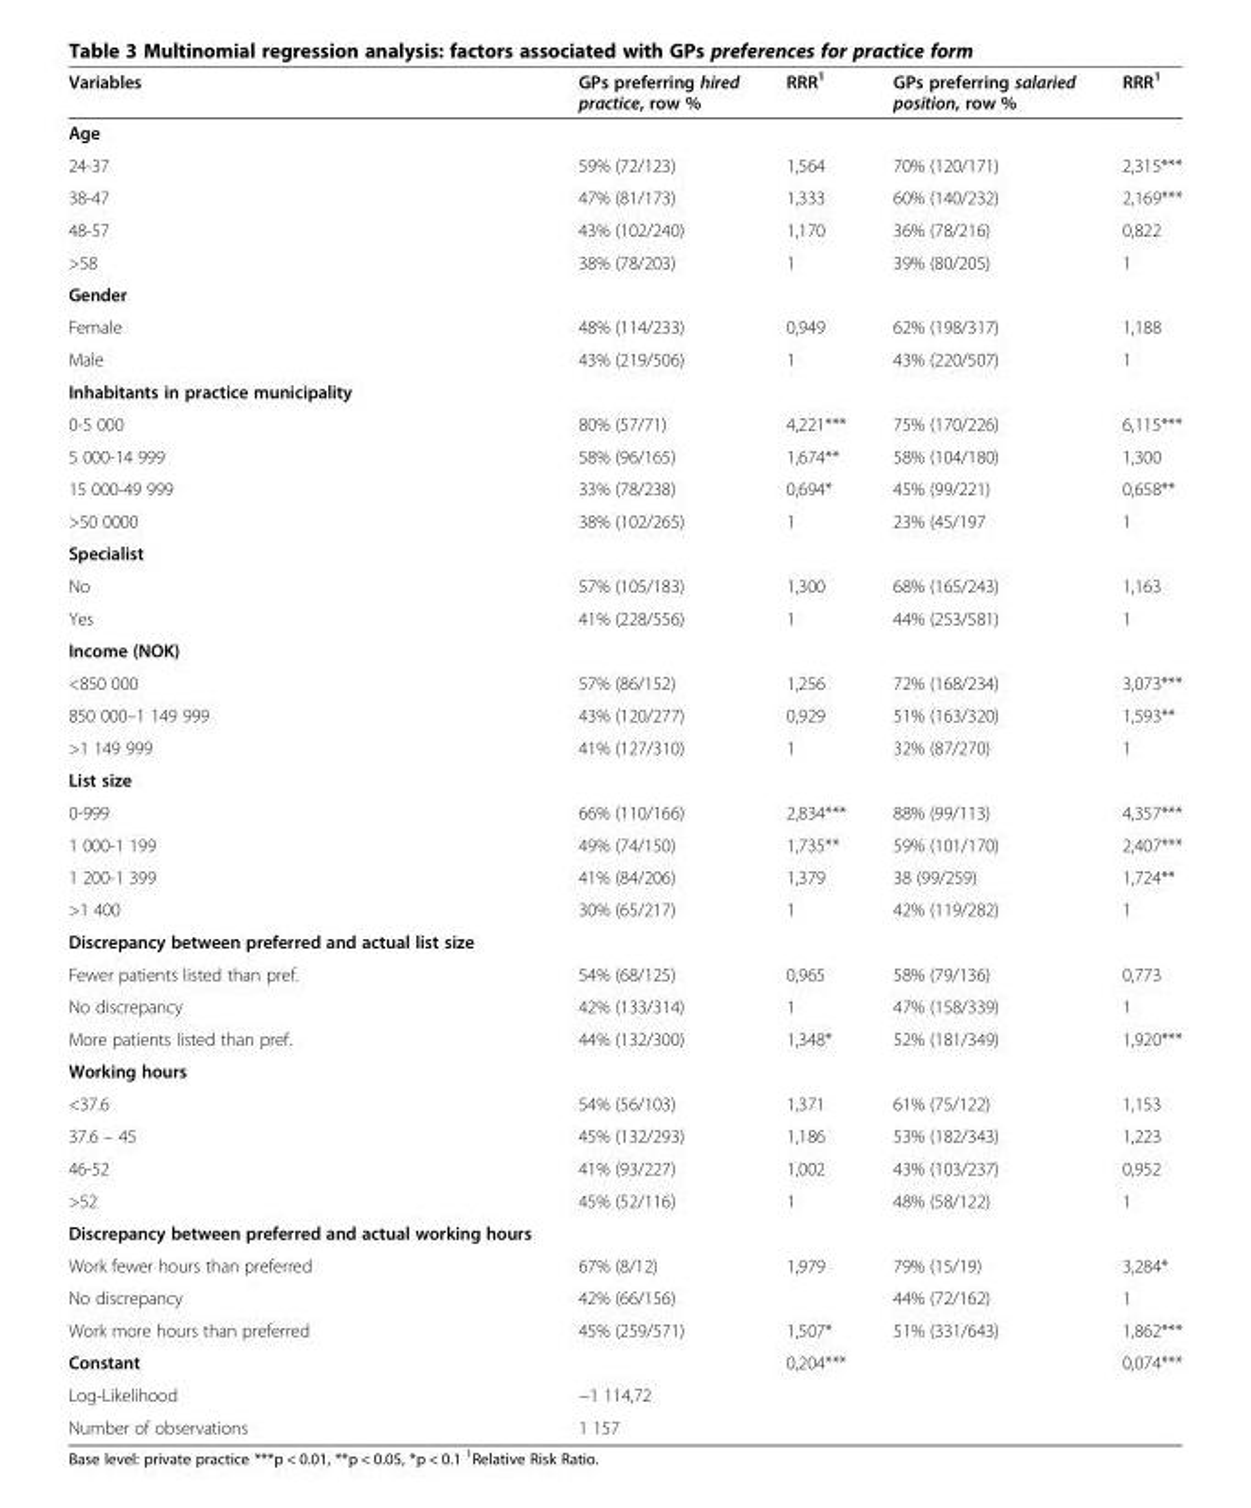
<table><thead><tr><td>Variables</td><td>GPs preferring hired practice, row %</td><td>RRR<sup>1</sup></td><td>GPs preferring salaried position, row %</td><td>RRR<sup>1</sup></td></tr></thead><tbody><tr><td colspan="5">Age</td></tr><tr><td>24-37</td><td>59% (72/123)</td><td>1,564</td><td>70% (120/171)</td><td>2,315***</td></tr><tr><td>38-47</td><td>47% (81/173)</td><td>1,333</td><td>60% (140/232)</td><td>2,169***</td></tr><tr><td>48-57</td><td>43% (102/240)</td><td>1,170</td><td>36% (78/216)</td><td>0,822</td></tr><tr><td>&gt;58</td><td>38% (78/203)</td><td>1</td><td>39% (80/205)</td><td>1</td></tr><tr><td colspan="5">Gender</td></tr><tr><td>Female</td><td>48% (114/233)</td><td>0,949</td><td>62% (198/317)</td><td>1,188</td></tr><tr><td>Male</td><td>43% (219/506)</td><td>1</td><td>43% (220/507)</td><td>1</td></tr><tr><td colspan="5">Inhabitants in practice municipality</td></tr><tr><td>0-5 000</td><td>80% (57/71)</td><td>4,221***</td><td>75% (170/226)</td><td>6,115***</td></tr><tr><td>5 000-14 999</td><td>58% (96/165)</td><td>1,674**</td><td>58% (104/180)</td><td>1,300</td></tr><tr><td>15 000-49 999</td><td>33% (78/238)</td><td>0,694*</td><td>45% (99/221)</td><td>0,658**</td></tr><tr><td>&gt;50 0000</td><td>38% (102/265)</td><td>1</td><td>23% (45/197</td><td>1</td></tr><tr><td colspan="5">Specialist</td></tr><tr><td>No</td><td>57% (105/183)</td><td>1,300</td><td>68% (165/243)</td><td>1,163</td></tr><tr><td>Yes</td><td>41% (228/556)</td><td>1</td><td>44% (253/581)</td><td>1</td></tr><tr><td colspan="5">Income (NOK)</td></tr><tr><td>&lt;850 000</td><td>57% (86/152)</td><td>1,256</td><td>72% (168/234)</td><td>3,073***</td></tr><tr><td>850 000–1 149 999</td><td>43% (120/277)</td><td>0,929</td><td>51% (163/320)</td><td>1,593**</td></tr><tr><td>&gt;1 149 999</td><td>41% (127/310)</td><td>1</td><td>32% (87/270)</td><td>1</td></tr><tr><td colspan="5">List size</td></tr><tr><td>0-999</td><td>66% (110/166)</td><td>2,834***</td><td>88% (99/113)</td><td>4,357***</td></tr><tr><td>1 000-1 199</td><td>49% (74/150)</td><td>1,735**</td><td>59% (101/170)</td><td>2,407***</td></tr><tr><td>1 200-1 399</td><td>41% (84/206)</td><td>1,379</td><td>38 (99/259)</td><td>1,724**</td></tr><tr><td>&gt;1 400</td><td>30% (65/217)</td><td>1</td><td>42% (119/282)</td><td>1</td></tr><tr><td colspan="5">Discrepancy between preferred and actual list size</td></tr><tr><td>Fewer patients listed than pref.</td><td>54% (68/125)</td><td>0,965</td><td>58% (79/136)</td><td>0,773</td></tr><tr><td>No discrepancy</td><td>42% (133/314)</td><td>1</td><td>47% (158/339)</td><td>1</td></tr><tr><td>More patients listed than pref.</td><td>44% (132/300)</td><td>1,348*</td><td>52% (181/349)</td><td>1,920***</td></tr><tr><td colspan="5">Working hours</td></tr><tr><td>&lt;37.6</td><td>54% (56/103)</td><td>1,371</td><td>61% (75/122)</td><td>1,153</td></tr><tr><td>37.6 – 45</td><td>45% (132/293)</td><td>1,186</td><td>53% (182/343)</td><td>1,223</td></tr><tr><td>46-52</td><td>41% (93/227)</td><td>1,002</td><td>43% (103/237)</td><td>0,952</td></tr><tr><td>&gt;52</td><td>45% (52/116)</td><td>1</td><td>48% (58/122)</td><td>1</td></tr><tr><td colspan="5">Discrepancy between preferred and actual working hours</td></tr><tr><td>Work fewer hours than preferred</td><td>67% (8/12)</td><td>1,979</td><td>79% (15/19)</td><td>3,284*</td></tr><tr><td>No discrepancy</td><td>42% (66/156)</td><td></td><td>44% (72/162)</td><td>1</td></tr><tr><td>Work more hours than preferred</td><td>45% (259/571)</td><td>1,507*</td><td>51% (331/643)</td><td>1,862***</td></tr><tr><td>Constant</td><td></td><td>0,204***</td><td></td><td>0,074***</td></tr><tr><td>Log-Likelihood</td><td>−1 114,72</td><td></td><td></td><td></td></tr><tr><td>Number of observations</td><td>1 157</td><td></td><td></td><td></td></tr></tbody></table>